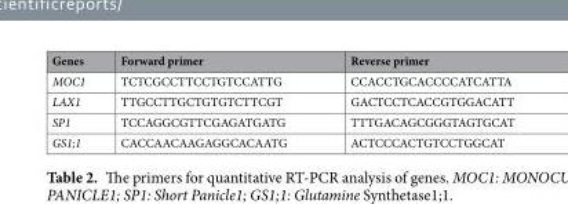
<table><thead><tr><td>Genes</td><td>Forward primer</td><td>Reverse primer</td></tr></thead><tbody><tr><td>MOC1</td><td>TCTCGCCTTCCTGTCCATTG</td><td>CCACCTGCACCCCATCATTA</td></tr><tr><td>LAX1</td><td>TTGCCTTGCTGTGTCTTCGT</td><td>GACTCCTCACCGTGGACATT</td></tr><tr><td>SP1</td><td>TCCAGGCGTTCGAGATGATG</td><td>TTTGACAGCGGGTAGTGCAT</td></tr><tr><td>GS1;1</td><td>CACCAACAAGAGGCACAATG</td><td>ACTCCCACTGTCCTGGCAT</td></tr></tbody></table>